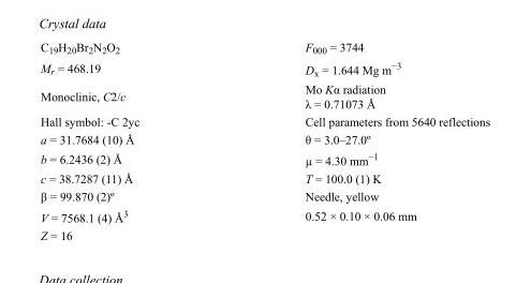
<table><tbody><tr><td>C<sub>19</sub>H<sub>20</sub>Br<sub>2</sub>N<sub>2</sub>O<sub>2</sub></td><td>F000 = 3744</td></tr><tr><td>M<sub>r</sub> = 468.19</td><td>D<sub>x</sub> = 1.644 Mg m<sup>−3</sup></td></tr><tr><td>Monoclinic, C2/c</td><td>Mo Kα radiation λ = 0.71073 Å</td></tr><tr><td>Hall symbol: -C 2yc</td><td>Cell parameters from 5640 reflections</td></tr><tr><td>a = 31.7684 (10) Å</td><td>θ = 3.0–27.0º</td></tr><tr><td>b = 6.2436 (2) Å</td><td>µ = 4.30 mm<sup>−1</sup></td></tr><tr><td>c = 38.7287 (11) Å</td><td>T = 100.0 (1) K</td></tr><tr><td>β = 99.870 (2)º</td><td>Needle, yellow</td></tr><tr><td>V = 7568.1 (4) Å<sup>3</sup></td><td>0.52 × 0.10 × 0.06 mm</td></tr><tr><td>Z = 16</td><td></td></tr></tbody></table>